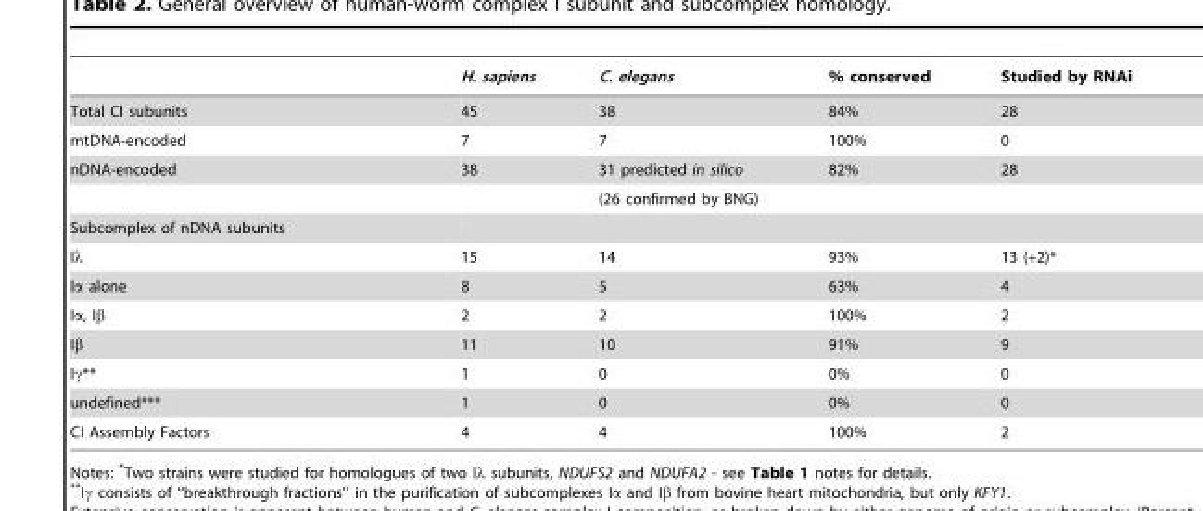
<table><thead><tr><td></td><td>H. sapiens</td><td>C. elegans</td><td>% conserved</td><td>Studied by RNAi</td></tr></thead><tbody><tr><td>Total CI subunits</td><td>45</td><td>38</td><td>84%</td><td>28</td></tr><tr><td>mtDNA-encoded</td><td>7</td><td>7</td><td>100%</td><td>0</td></tr><tr><td rowspan="2">nDNA-encoded</td><td>38</td><td>31 predicted in silico</td><td>82%</td><td>28</td></tr><tr><td></td><td>(26 confirmed by BNG)</td><td></td><td></td></tr><tr><td colspan="5">Subcomplex of nDNA subunits</td></tr><tr><td>Iλ</td><td>15</td><td>14</td><td>93%</td><td>13 (+2)*</td></tr><tr><td>Iα alone</td><td>8</td><td>5</td><td>63%</td><td>4</td></tr><tr><td>Iα, Iβ</td><td>2</td><td>2</td><td>100%</td><td>2</td></tr><tr><td>Iβ</td><td>11</td><td>10</td><td>91%</td><td>9</td></tr><tr><td>Iγ**</td><td>1</td><td>0</td><td>0%</td><td>0</td></tr><tr><td>undefined***</td><td>1</td><td>0</td><td>0%</td><td>0</td></tr><tr><td>CI Assembly Factors</td><td>4</td><td>4</td><td>100%</td><td>2</td></tr></tbody></table>